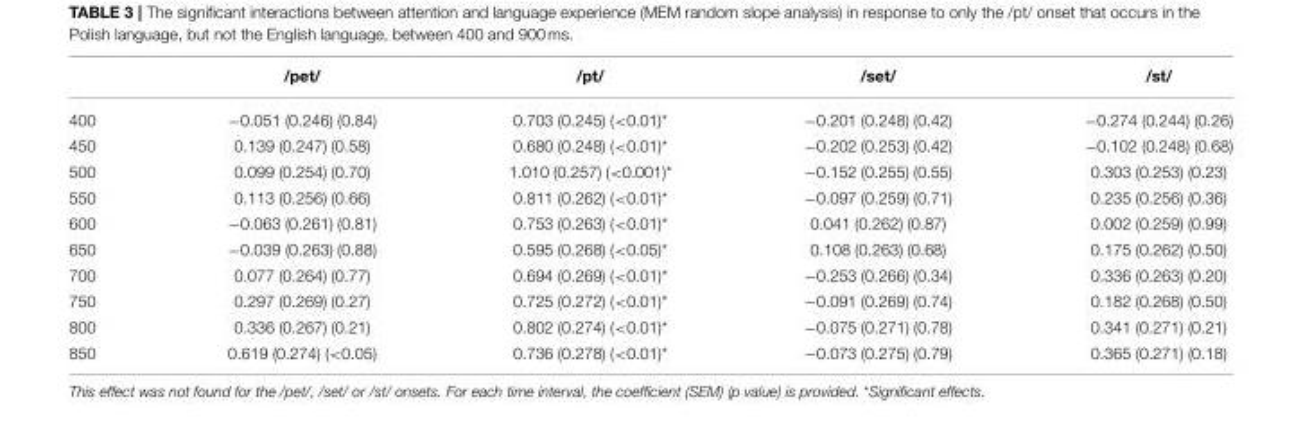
<table><thead><tr><td></td><td>/pet/</td><td>/pt/</td><td>/set/</td><td>/st/</td></tr></thead><tbody><tr><td>400</td><td>−0.051 (0.246) (0.84)</td><td>0.703 (0.245) (&lt;0.01)*</td><td>−0.201 (0.248) (0.42)</td><td>−0.274 (0.244) (0.26)</td></tr><tr><td>450</td><td>0.139 (0.247) (0.58)</td><td>0.680 (0.248) (&lt;0.01)*</td><td>−0.202 (0.253) (0.42)</td><td>−0.102 (0.248) (0.68)</td></tr><tr><td>500</td><td>0.099 (0.254) (0.70)</td><td>1.010 (0.257) (&lt;0.001)*</td><td>−0.152 (0.255) (0.55)</td><td>0.303 (0.253) (0.23)</td></tr><tr><td>550</td><td>0.113 (0.256) (0.66)</td><td>0.811 (0.262) (&lt;0.01)*</td><td>−0.097 (0.259) (0.71)</td><td>0.235 (0.256) (0.36)</td></tr><tr><td>600</td><td>−0.063 (0.261) (0.81)</td><td>0.753 (0.263) (&lt;0.01)*</td><td>0.041 (0.262) (0.87)</td><td>0.002 (0.259) (0.99)</td></tr><tr><td>650</td><td>−0.039 (0.263) (0.88)</td><td>0.595 (0.268) (&lt;0.05)*</td><td>0.108 (0.263) (0.68)</td><td>0.175 (0.262) (0.50)</td></tr><tr><td>700</td><td>0.077 (0.264) (0.77)</td><td>0.694 (0.269) (&lt;0.01)*</td><td>−0.253 (0.266) (0.34)</td><td>0.336 (0.263) (0.20)</td></tr><tr><td>750</td><td>0.297 (0.269) (0.27)</td><td>0.725 (0.272) (&lt;0.01)*</td><td>−0.091 (0.269) (0.74)</td><td>0.182 (0.268) (0.50)</td></tr><tr><td>800</td><td>0.336 (0.267) (0.21)</td><td>0.802 (0.274) (&lt;0.01)*</td><td>−0.075 (0.271) (0.78)</td><td>0.341 (0.271) (0.21)</td></tr><tr><td>850</td><td>0.619 (0.274) (&lt;0.05)</td><td>0.736 (0.278) (&lt;0.01)*</td><td>−0.073 (0.275) (0.79)</td><td>0.365 (0.271) (0.18)</td></tr></tbody></table>